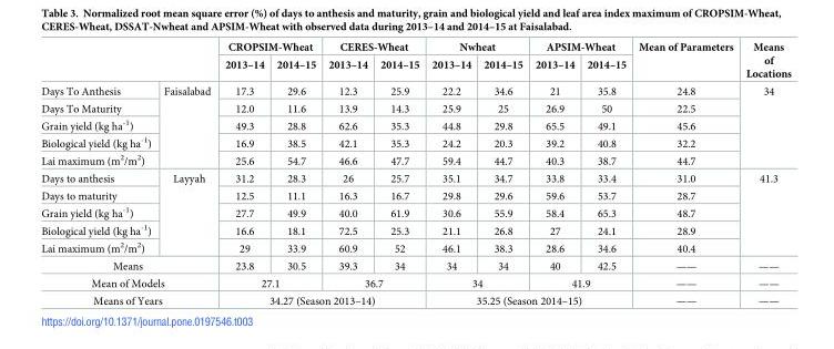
<table><thead><tr><td rowspan="2"></td><td rowspan="2"></td><td colspan="2">CROPSIM-Wheat</td><td colspan="2">CERES-Wheat</td><td colspan="2">Nwheat</td><td colspan="2">APSIM-Wheat</td><td rowspan="2">Mean of Parameters</td><td rowspan="2">Means of Locations</td></tr><tr><td>2013–14</td><td>2014–15</td><td>2013–14</td><td>2014–15</td><td>2013–14</td><td>2014–15</td><td>2013–14</td><td>2014–15</td></tr></thead><tbody><tr><td>Days To Anthesis</td><td rowspan="5">Faisalabad</td><td>17.3</td><td>29.6</td><td>12.3</td><td>25.9</td><td>22.2</td><td>34.6</td><td>21</td><td>35.8</td><td>24.8</td><td rowspan="5">34</td></tr><tr><td>Days To Maturity</td><td>12.0</td><td>11.6</td><td>13.9</td><td>14.3</td><td>25.9</td><td>25</td><td>26.9</td><td>50</td><td>22.5</td></tr><tr><td>Grain yield (kg ha<sup>-1</sup>)</td><td>49.3</td><td>28.8</td><td>62.6</td><td>35.3</td><td>44.8</td><td>29.8</td><td>65.5</td><td>49.1</td><td>45.6</td></tr><tr><td>Biological yield (kg ha<sup>-1</sup>)</td><td>16.9</td><td>38.5</td><td>42.1</td><td>35.3</td><td>24.2</td><td>20.3</td><td>39.2</td><td>40.8</td><td>32.2</td></tr><tr><td>Lai maximum (m<sup>2</sup>/m<sup>2</sup>)</td><td>25.6</td><td>54.7</td><td>46.6</td><td>47.7</td><td>59.4</td><td>44.7</td><td>40.3</td><td>38.7</td><td>44.7</td></tr><tr><td>Days to anthesis</td><td rowspan="5">Layyah</td><td>31.2</td><td>28.3</td><td>26</td><td>25.7</td><td>35.1</td><td>34.7</td><td>33.8</td><td>33.4</td><td>31.0</td><td rowspan="5">41.3</td></tr><tr><td>Days to maturity</td><td>12.5</td><td>11.1</td><td>16.3</td><td>16.7</td><td>29.8</td><td>29.6</td><td>59.6</td><td>53.7</td><td>28.7</td></tr><tr><td>Grain yield (kg ha<sup>-1</sup>)</td><td>27.7</td><td>49.9</td><td>40.0</td><td>61.9</td><td>30.6</td><td>55.9</td><td>58.4</td><td>65.3</td><td>48.7</td></tr><tr><td>Biological yield (kg ha<sup>-1</sup>)</td><td>16.6</td><td>18.1</td><td>72.5</td><td>25.3</td><td>21.1</td><td>26.8</td><td>27</td><td>24.1</td><td>28.9</td></tr><tr><td>Lai maximum (m<sup>2</sup>/m<sup>2</sup>)</td><td>29</td><td>33.9</td><td>60.9</td><td>52</td><td>46.1</td><td>38.3</td><td>28.6</td><td>34.6</td><td>40.4</td></tr><tr><td colspan="2">Means</td><td>23.8</td><td>30.5</td><td>39.3</td><td>34</td><td>34</td><td>34</td><td>40</td><td>42.5</td><td>——</td><td>——</td></tr><tr><td colspan="2">Mean of Models</td><td colspan="2">27.1</td><td colspan="2">36.7</td><td colspan="2">34</td><td colspan="2">41.9</td><td>——</td><td>——</td></tr><tr><td colspan="2">Means of Years</td><td colspan="4">34.27 (Season 2013–14)</td><td colspan="4">35.25 (Season 2014–15)</td><td>——</td><td>——</td></tr></tbody></table>